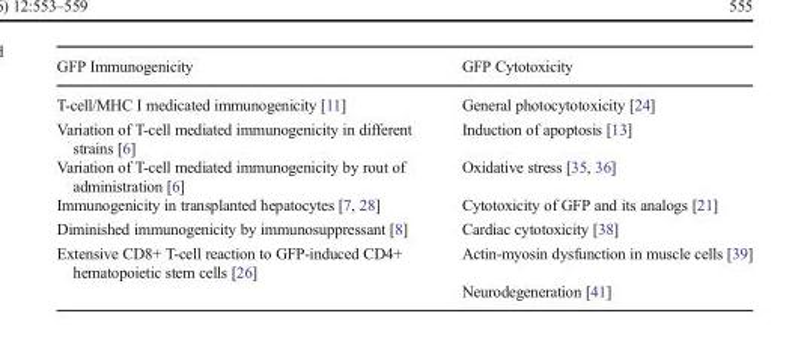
<table><thead><tr><td>GFP Immunogenicity</td><td>GFP Cytotoxicity</td></tr></thead><tbody><tr><td>T-cell/MHC I medicated immunogenicity [11]</td><td>General photocytotoxicity [24]</td></tr><tr><td>Variation of T-cell mediated immunogenicity in different strains [6]</td><td>Induction of apoptosis [13]</td></tr><tr><td>Variation of T-cell mediated immunogenicity by rout of administration [6]</td><td>Oxidative stress [35, 36]</td></tr><tr><td>Immunogenicity in transplanted hepatocytes [7, 28]</td><td>Cytotoxicity of GFP and its analogs [21]</td></tr><tr><td>Diminished immunogenicity by immunosuppressant [8]</td><td>Cardiac cytotoxicity [38]</td></tr><tr><td rowspan="2">Extensive CD8+ T-cell reaction to GFP-induced CD4+ hematopoietic stem cells [26]</td><td>Actin-myosin dysfunction in muscle cells [39]</td></tr><tr><td>Neurodegeneration [41]</td></tr></tbody></table>